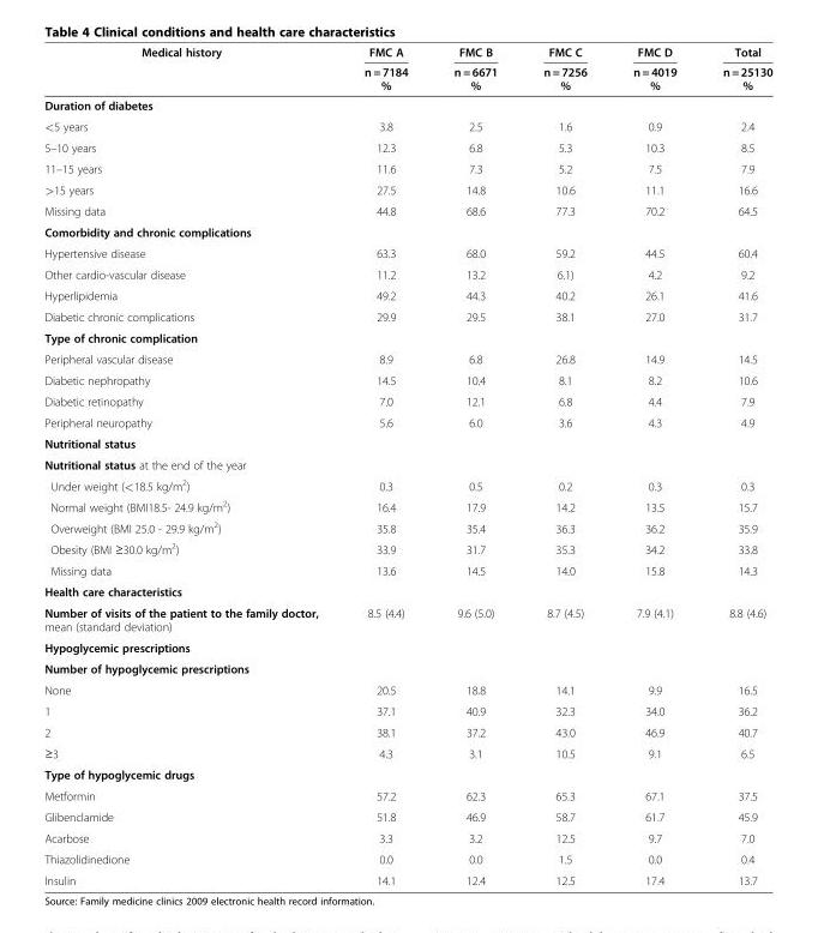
<table><thead><tr><td rowspan="2">Medical history</td><td rowspan="2">FMC A n = 7184 %</td><td rowspan="2">FMC B n = 6671 %</td><td rowspan="2">FMC C n = 7256 %</td><td rowspan="2">FMC D n = 4019 %</td><td rowspan="2">Total n = 25130 %</td></tr><tr></tr></thead><tbody><tr><td colspan="6">Duration of diabetes</td></tr><tr><td>&lt;5 years</td><td>3.8</td><td>2.5</td><td>1.6</td><td>0.9</td><td>2.4</td></tr><tr><td>5–10 years</td><td>12.3</td><td>6.8</td><td>5.3</td><td>10.3</td><td>8.5</td></tr><tr><td>11–15 years</td><td>11.6</td><td>7.3</td><td>5.2</td><td>7.5</td><td>7.9</td></tr><tr><td>&gt;15 years</td><td>27.5</td><td>14.8</td><td>10.6</td><td>11.1</td><td>16.6</td></tr><tr><td>Missing data</td><td>44.8</td><td>68.6</td><td>77.3</td><td>70.2</td><td>64.5</td></tr><tr><td colspan="6">Comorbidity and chronic complications</td></tr><tr><td>Hypertensive disease</td><td>63.3</td><td>68.0</td><td>59.2</td><td>44.5</td><td>60.4</td></tr><tr><td>Other cardio-vascular disease</td><td>11.2</td><td>13.2</td><td>6.1)</td><td>4.2</td><td>9.2</td></tr><tr><td>Hyperlipidemia</td><td>49.2</td><td>44.3</td><td>40.2</td><td>26.1</td><td>41.6</td></tr><tr><td>Diabetic chronic complications</td><td>29.9</td><td>29.5</td><td>38.1</td><td>27.0</td><td>31.7</td></tr><tr><td colspan="6">Type of chronic complication</td></tr><tr><td>Peripheral vascular disease</td><td>8.9</td><td>6.8</td><td>26.8</td><td>14.9</td><td>14.5</td></tr><tr><td>Diabetic nephropathy</td><td>14.5</td><td>10.4</td><td>8.1</td><td>8.2</td><td>10.6</td></tr><tr><td>Diabetic retinopathy</td><td>7.0</td><td>12.1</td><td>6.8</td><td>4.4</td><td>7.9</td></tr><tr><td>Peripheral neuropathy</td><td>5.6</td><td>6.0</td><td>3.6</td><td>4.3</td><td>4.9</td></tr><tr><td colspan="6">Nutritional status</td></tr><tr><td colspan="6">Nutritional status at the end of the year</td></tr><tr><td>Under weight (&lt;18.5 kg/m<sup>2</sup>)</td><td>0.3</td><td>0.5</td><td>0.2</td><td>0.3</td><td>0.3</td></tr><tr><td>Normal weight (BMI18.5- 24.9 kg/m<sup>2</sup>)</td><td>16.4</td><td>17.9</td><td>14.2</td><td>13.5</td><td>15.7</td></tr><tr><td>Overweight (BMI 25.0 - 29.9 kg/m<sup>2</sup>)</td><td>35.8</td><td>35.4</td><td>36.3</td><td>36.2</td><td>35.9</td></tr><tr><td>Obesity (BMI ≥30.0 kg/m<sup>2</sup>)</td><td>33.9</td><td>31.7</td><td>35.3</td><td>34.2</td><td>33.8</td></tr><tr><td>Missing data</td><td>13.6</td><td>14.5</td><td>14.0</td><td>15.8</td><td>14.3</td></tr><tr><td colspan="6">Health care characteristics</td></tr><tr><td>Number of visits of the patient to the family doctor, mean (standard deviation)</td><td>8.5 (4.4)</td><td>9.6 (5.0)</td><td>8.7 (4.5)</td><td>7.9 (4.1)</td><td>8.8 (4.6)</td></tr><tr><td colspan="6">Hypoglycemic prescriptions</td></tr><tr><td colspan="6">Number of hypoglycemic prescriptions</td></tr><tr><td>None</td><td>20.5</td><td>18.8</td><td>14.1</td><td>9.9</td><td>16.5</td></tr><tr><td>1</td><td>37.1</td><td>40.9</td><td>32.3</td><td>34.0</td><td>36.2</td></tr><tr><td>2</td><td>38.1</td><td>37.2</td><td>43.0</td><td>46.9</td><td>40.7</td></tr><tr><td>≥3</td><td>4.3</td><td>3.1</td><td>10.5</td><td>9.1</td><td>6.5</td></tr><tr><td colspan="6">Type of hypoglycemic drugs</td></tr><tr><td>Metformin</td><td>57.2</td><td>62.3</td><td>65.3</td><td>67.1</td><td>37.5</td></tr><tr><td>Glibenclamide</td><td>51.8</td><td>46.9</td><td>58.7</td><td>61.7</td><td>45.9</td></tr><tr><td>Acarbose</td><td>3.3</td><td>3.2</td><td>12.5</td><td>9.7</td><td>7.0</td></tr><tr><td>Thiazolidinedione</td><td>0.0</td><td>0.0</td><td>1.5</td><td>0.0</td><td>0.4</td></tr><tr><td>Insulin</td><td>14.1</td><td>12.4</td><td>12.5</td><td>17.4</td><td>13.7</td></tr></tbody></table>